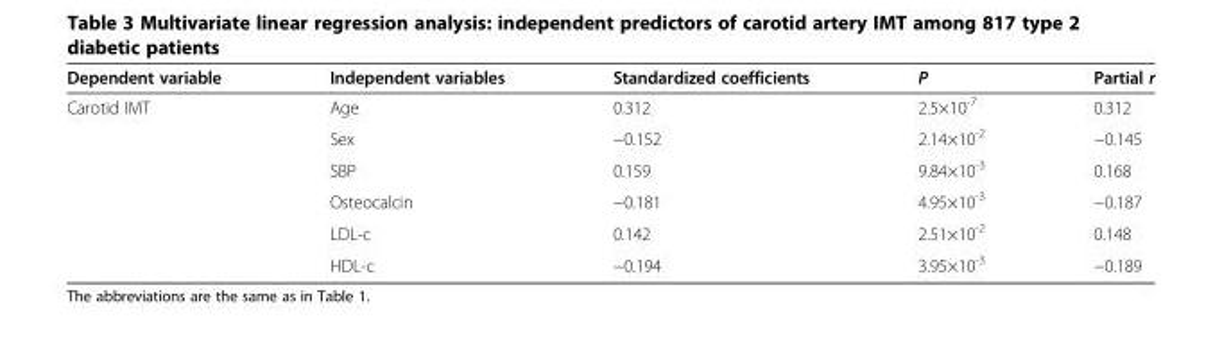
<table><thead><tr><td>Dependent variable</td><td>Independent variables</td><td>Standardized coefficients</td><td>P</td><td>Partial r</td></tr></thead><tbody><tr><td rowspan="6">Carotid IMT</td><td>Age</td><td>0.312</td><td>2.5×10<sup>-7</sup></td><td>0.312</td></tr><tr><td>Sex</td><td>−0.152</td><td>2.14×10<sup>-2</sup></td><td>−0.145</td></tr><tr><td>SBP</td><td>0.159</td><td>9.84×10<sup>-3</sup></td><td>0.168</td></tr><tr><td>Osteocalcin</td><td>−0.181</td><td>4.95×10<sup>-3</sup></td><td>−0.187</td></tr><tr><td>LDL-c</td><td>0.142</td><td>2.51×10<sup>-2</sup></td><td>0.148</td></tr><tr><td>HDL-c</td><td>−0.194</td><td>3.95×10<sup>-3</sup></td><td>−0.189</td></tr></tbody></table>